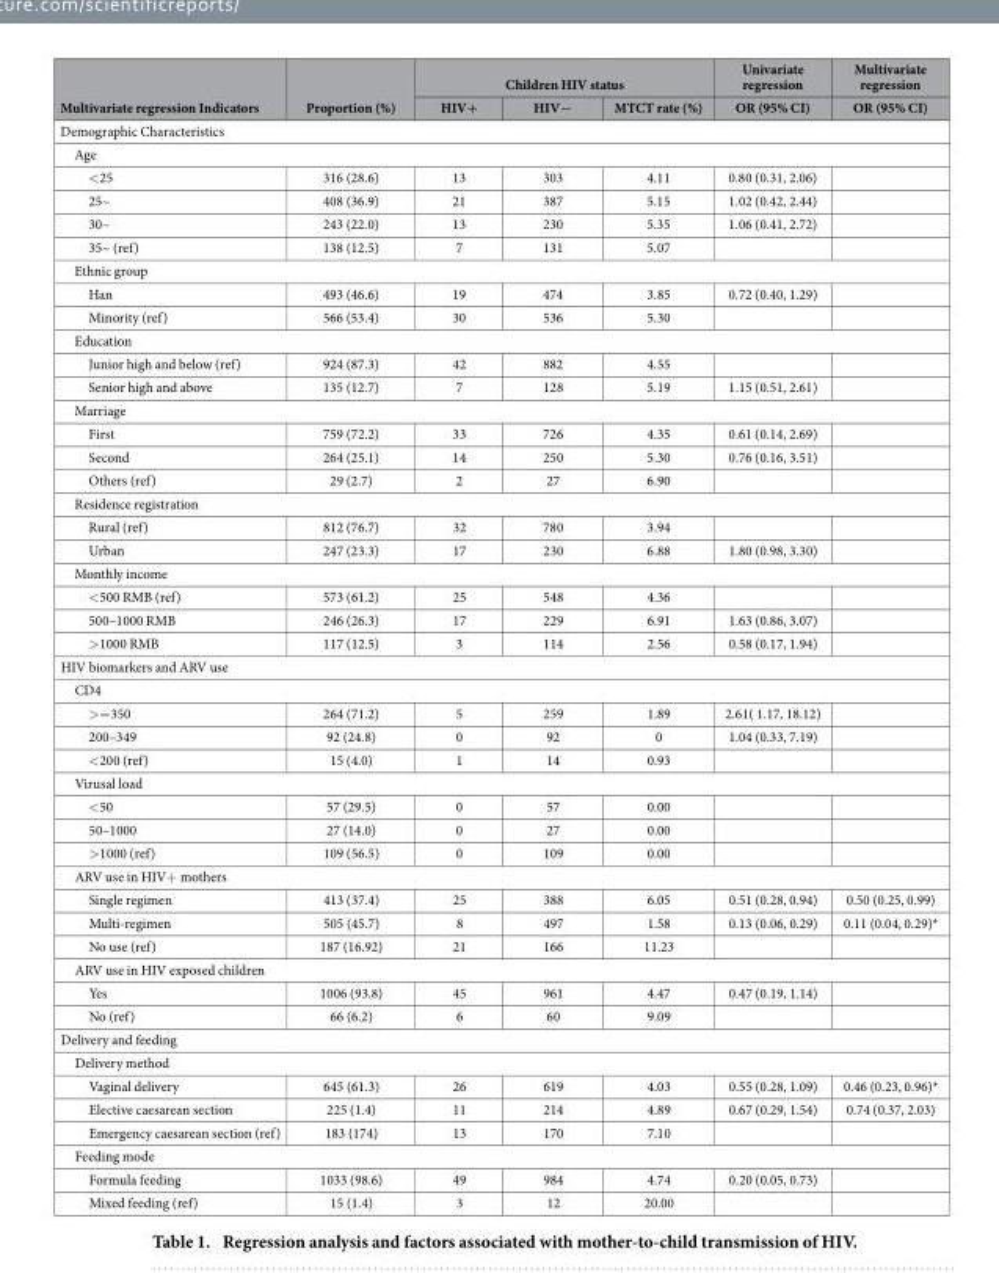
<table><thead><tr><td rowspan="2">Multivariate regression Indicators</td><td rowspan="2">Proportion (%)</td><td colspan="3">Children HIV status</td><td rowspan="2">Univariate regression OR (95% CI)</td><td rowspan="2">Multivariate regression OR (95% CI)</td></tr><tr><td>HIV+</td><td>HIV−</td><td>MTCT rate (%)</td></tr></thead><tbody><tr><td colspan="7">Demographic Characteristics</td></tr><tr><td colspan="7">Age</td></tr><tr><td>&lt; 25</td><td>316 (28.6)</td><td>13</td><td>303</td><td>4.11</td><td>0.80 (0.31, 2.06)</td><td></td></tr><tr><td>25~</td><td>408 (36.9)</td><td>21</td><td>387</td><td>5.15</td><td>1.02 (0.42, 2.44)</td><td></td></tr><tr><td>30~</td><td>243 (22.0)</td><td>13</td><td>230</td><td>5.35</td><td>1.06 (0.41, 2.72)</td><td></td></tr><tr><td>35~ (ref)</td><td>138 (12.5)</td><td>7</td><td>131</td><td>5.07</td><td></td><td></td></tr><tr><td colspan="7">Ethnic group</td></tr><tr><td>Han</td><td>493 (46.6)</td><td>19</td><td>474</td><td>3.85</td><td>0.72 (0.40, 1.29)</td><td></td></tr><tr><td>Minority (ref)</td><td>566 (53.4)</td><td>30</td><td>536</td><td>5.30</td><td></td><td></td></tr><tr><td colspan="7">Education</td></tr><tr><td>Junior high and below (ref)</td><td>924 (87.3)</td><td>42</td><td>882</td><td>4.55</td><td></td><td></td></tr><tr><td>Senior high and above</td><td>135 (12.7)</td><td>7</td><td>128</td><td>5.19</td><td>1.15 (0.51, 2.61)</td><td></td></tr><tr><td colspan="7">Marriage</td></tr><tr><td>First</td><td>759 (72.2)</td><td>33</td><td>726</td><td>4.35</td><td>0.61 (0.14, 2.69)</td><td></td></tr><tr><td>Second</td><td>264 (25.1)</td><td>14</td><td>250</td><td>5.30</td><td>0.76 (0.16, 3.51)</td><td></td></tr><tr><td>Others (ref)</td><td>29 (2.7)</td><td>2</td><td>27</td><td>6.90</td><td></td><td></td></tr><tr><td colspan="7">Residence registration</td></tr><tr><td>Rural (ref)</td><td>812 (76.7)</td><td>32</td><td>780</td><td>3.94</td><td></td><td></td></tr><tr><td>Urban</td><td>247 (23.3)</td><td>17</td><td>230</td><td>6.88</td><td>1.80 (0.98, 3.30)</td><td></td></tr><tr><td colspan="7">Monthly income</td></tr><tr><td>&lt; 500 RMB (ref)</td><td>573 (61.2)</td><td>25</td><td>548</td><td>4.36</td><td></td><td></td></tr><tr><td>500–1000 RMB</td><td>246 (26.3)</td><td>17</td><td>229</td><td>6.91</td><td>1.63 (0.86, 3.07)</td><td></td></tr><tr><td>&gt; 1000 RMB</td><td>117 (12.5)</td><td>3</td><td>114</td><td>2.56</td><td>0.58 (0.17, 1.94)</td><td></td></tr><tr><td colspan="7">HIV biomarkers and ARV use</td></tr><tr><td colspan="7">CD4</td></tr><tr><td>&gt; = 350</td><td>264 (71.2)</td><td>5</td><td>259</td><td>1.89</td><td>2.61( 1.17, 18.12)</td><td></td></tr><tr><td>200–349</td><td>92 (24.8)</td><td>0</td><td>92</td><td>0</td><td>1.04 (0.33, 7.19)</td><td></td></tr><tr><td>&lt; 200 (ref)</td><td>15 (4.0)</td><td>1</td><td>14</td><td>0.93</td><td></td><td></td></tr><tr><td colspan="7">Virusal load</td></tr><tr><td>&lt; 50</td><td>57 (29.5)</td><td>0</td><td>57</td><td>0.00</td><td></td><td></td></tr><tr><td>50–1000</td><td>27 (14.0)</td><td>0</td><td>27</td><td>0.00</td><td></td><td></td></tr><tr><td>&gt; 1000 (ref)</td><td>109 (56.5)</td><td>0</td><td>109</td><td>0.00</td><td></td><td></td></tr><tr><td colspan="7">ARV use in HIV+ mothers</td></tr><tr><td>Single regimen</td><td>413 (37.4)</td><td>25</td><td>388</td><td>6.05</td><td>0.51 (0.28, 0.94)</td><td>0.50 (0.25, 0.99)</td></tr><tr><td>Multi-regimen</td><td>505 (45.7)</td><td>8</td><td>497</td><td>1.58</td><td>0.13 (0.06, 0.29)</td><td>0.11 (0.04, 0.29)*</td></tr><tr><td>No use (ref)</td><td>187 (16.92)</td><td>21</td><td>166</td><td>11.23</td><td></td><td></td></tr><tr><td colspan="7">ARV use in HIV exposed children</td></tr><tr><td>Yes</td><td>1006 (93.8)</td><td>45</td><td>961</td><td>4.47</td><td>0.47 (0.19, 1.14)</td><td></td></tr><tr><td>No (ref)</td><td>66 (6.2)</td><td>6</td><td>60</td><td>9.09</td><td></td><td></td></tr><tr><td colspan="7">Delivery and feeding</td></tr><tr><td colspan="7">Delivery method</td></tr><tr><td>Vaginal delivery</td><td>645 (61.3)</td><td>26</td><td>619</td><td>4.03</td><td>0.55 (0.28, 1.09)</td><td>0.46 (0.23, 0.96)*</td></tr><tr><td>Elective caesarean section</td><td>225 (1.4)</td><td>11</td><td>214</td><td>4.89</td><td>0.67 (0.29, 1.54)</td><td>0.74 (0.37, 2.03)</td></tr><tr><td>Emergency caesarean section (ref)</td><td>183 (174)</td><td>13</td><td>170</td><td>7.10</td><td></td><td></td></tr><tr><td colspan="7">Feeding mode</td></tr><tr><td>Formula feeding</td><td>1033 (98.6)</td><td>49</td><td>984</td><td>4.74</td><td>0.20 (0.05, 0.73)</td><td></td></tr><tr><td>Mixed feeding (ref)</td><td>15 (1.4)</td><td>3</td><td>12</td><td>20.00</td><td></td><td></td></tr></tbody></table>